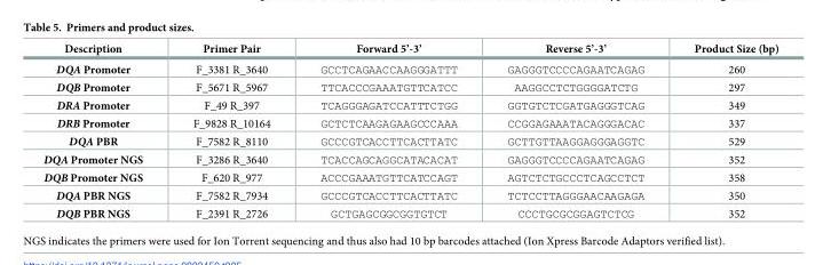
<table><thead><tr><td>Description</td><td>Primer Pair</td><td>Forward 5’-3’</td><td>Reverse 5’-3’</td><td>Product Size (bp)</td></tr></thead><tbody><tr><td>DQA Promoter</td><td>F_3381 R_3640</td><td>GCCTCAGAACCAAGGGATTT</td><td>GAGGGTCCCCAGAATCAGAG</td><td>260</td></tr><tr><td>DQB Promoter</td><td>F_5671 R_5967</td><td>TTCACCCGAAATGTTCATCC</td><td>AAGGCCTCTGGGGATCTG</td><td>297</td></tr><tr><td>DRA Promoter</td><td>F_49 R_397</td><td>TCAGGGAGATCCATTTCTGG</td><td>GGTGTCTCGATGAGGGTCAG</td><td>349</td></tr><tr><td>DRB Promoter</td><td>F_9828 R_10164</td><td>GCTCTCAAGAGAAGCCCAAA</td><td>CCGGAGAAATACAGGGACAC</td><td>337</td></tr><tr><td>DQA PBR</td><td>F_7582 R_8110</td><td>GCCCGTCACCTTCACTTATC</td><td>GCTTGTTAAGGAGGGAGGTC</td><td>529</td></tr><tr><td>DQA Promoter NGS</td><td>F_3286 R_3640</td><td>TCACCAGCAGGCATACACAT</td><td>GAGGGTCCCCAGAATCAGAG</td><td>352</td></tr><tr><td>DQB Promoter NGS</td><td>F_620 R_977</td><td>ACCCGAAATGTTCATCCAGT</td><td>AGTCTCTGCCCTCAGCCTCT</td><td>358</td></tr><tr><td>DQA PBR NGS</td><td>F_7582 R_7934</td><td>GCCCGTCACCTTCACTTATC</td><td>TCTCCTTAGGGAACAAGAGA</td><td>350</td></tr><tr><td>DQB PBR NGS</td><td>F_2391 R_2726</td><td>GCTGAGCGGCGGTGTCT</td><td>CCCTGCGCGGAGTCTCG</td><td>352</td></tr></tbody></table>